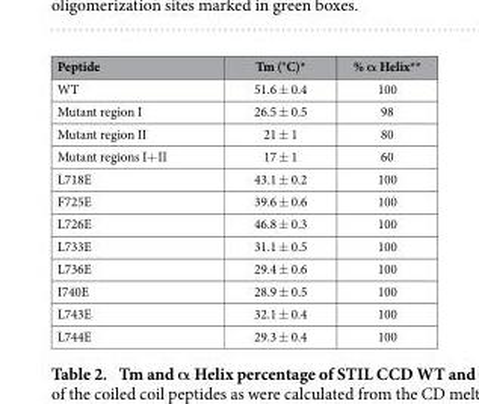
<table><thead><tr><td>Peptide</td><td>Tm (°C)*</td><td>% α Helix**</td></tr></thead><tbody><tr><td>WT</td><td>51.6 ± 0.4</td><td>100</td></tr><tr><td>Mutant region I</td><td>26.5 ± 0.5</td><td>98</td></tr><tr><td>Mutant region II</td><td>21 ± 1</td><td>80</td></tr><tr><td>Mutant regions I+ II</td><td>17 ± 1</td><td>60</td></tr><tr><td>L718E</td><td>43.1 ± 0.2</td><td>100</td></tr><tr><td>F725E</td><td>39.6 ± 0.6</td><td>100</td></tr><tr><td>L726E</td><td>46.8 ± 0.3</td><td>100</td></tr><tr><td>L733E</td><td>31.1 ± 0.5</td><td>100</td></tr><tr><td>L736E</td><td>29.4 ± 0.6</td><td>100</td></tr><tr><td>I740E</td><td>28.9 ± 0.5</td><td>100</td></tr><tr><td>L743E</td><td>32.1 ± 0.4</td><td>100</td></tr><tr><td>L744E</td><td>29.3 ± 0.4</td><td>100</td></tr></tbody></table>